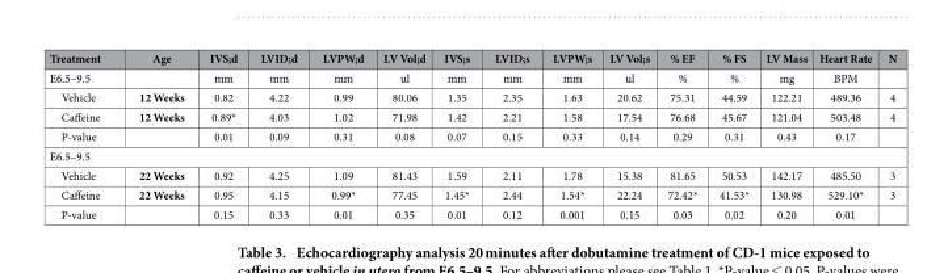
<table><thead><tr><td>Treatment</td><td>Age</td><td>IVS;d</td><td>LVID;d</td><td>LVPW;d</td><td>LV Vol;d</td><td>IVS;s</td><td>LVID;s</td><td>LVPW;s</td><td>LV Vol;s</td><td>% EF</td><td>% FS</td><td>LV Mass</td><td>Heart Rate</td><td>N</td></tr></thead><tbody><tr><td>E6.5–9.5</td><td></td><td>mm</td><td>mm</td><td>mm</td><td>ul</td><td>mm</td><td>mm</td><td>mm</td><td>ul</td><td>%</td><td>%</td><td>mg</td><td>BPM</td><td></td></tr><tr><td>Vehicle</td><td>12 Weeks</td><td>0.82</td><td>4.22</td><td>0.99</td><td>80.06</td><td>1.35</td><td>2.35</td><td>1.63</td><td>20.62</td><td>75.31</td><td>44.59</td><td>122.21</td><td>489.36</td><td>4</td></tr><tr><td>Caffeine</td><td>12 Weeks</td><td>0.89*</td><td>4.03</td><td>1.02</td><td>71.98</td><td>1.42</td><td>2.21</td><td>1.58</td><td>17.54</td><td>76.68</td><td>45.67</td><td>121.04</td><td>503.48</td><td>4</td></tr><tr><td>P-value</td><td></td><td>0.01</td><td>0.09</td><td>0.31</td><td>0.08</td><td>0.07</td><td>0.15</td><td>0.33</td><td>0.14</td><td>0.29</td><td>0.31</td><td>0.43</td><td>0.17</td><td></td></tr><tr><td colspan="15">E6.5–9.5</td></tr><tr><td>Vehicle</td><td>22 Weeks</td><td>0.92</td><td>4.25</td><td>1.09</td><td>81.43</td><td>1.59</td><td>2.11</td><td>1.78</td><td>15.38</td><td>81.65</td><td>50.53</td><td>142.17</td><td>485.50</td><td>3</td></tr><tr><td>Caffeine</td><td>22 Weeks</td><td>0.95</td><td>4.15</td><td>0.99*</td><td>77.45</td><td>1.45*</td><td>2.44</td><td>1.54*</td><td>22.24</td><td>72.42*</td><td>41.53*</td><td>130.98</td><td>529.10*</td><td>3</td></tr><tr><td>P-value</td><td></td><td>0.15</td><td>0.33</td><td>0.01</td><td>0.35</td><td>0.01</td><td>0.12</td><td>0.001</td><td>0.15</td><td>0.03</td><td>0.02</td><td>0.20</td><td>0.01</td><td></td></tr></tbody></table>